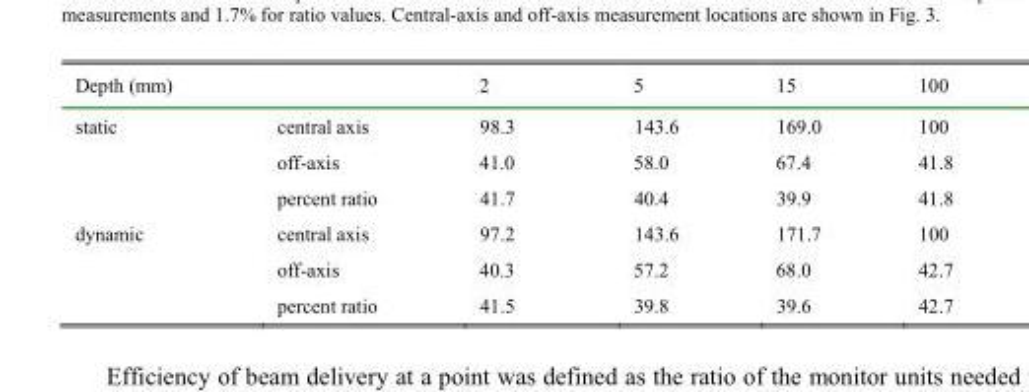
<table><thead><tr><td>Depth (mm)</td><td></td><td>2</td><td>5</td><td>15</td><td>100</td></tr></thead><tbody><tr><td rowspan="3">static</td><td>central axis</td><td>98.3</td><td>143.6</td><td>169.0</td><td>100</td></tr><tr><td>off-axis</td><td>41.0</td><td>58.0</td><td>67.4</td><td>41.8</td></tr><tr><td>percent ratio</td><td>41.7</td><td>40.4</td><td>39.9</td><td>41.8</td></tr><tr><td rowspan="3">dynamic</td><td>central axis</td><td>97.2</td><td>143.6</td><td>171.7</td><td>100</td></tr><tr><td>off-axis</td><td>40.3</td><td>57.2</td><td>68.0</td><td>42.7</td></tr><tr><td>percent ratio</td><td>41.5</td><td>39.8</td><td>39.6</td><td>42.7</td></tr></tbody></table>